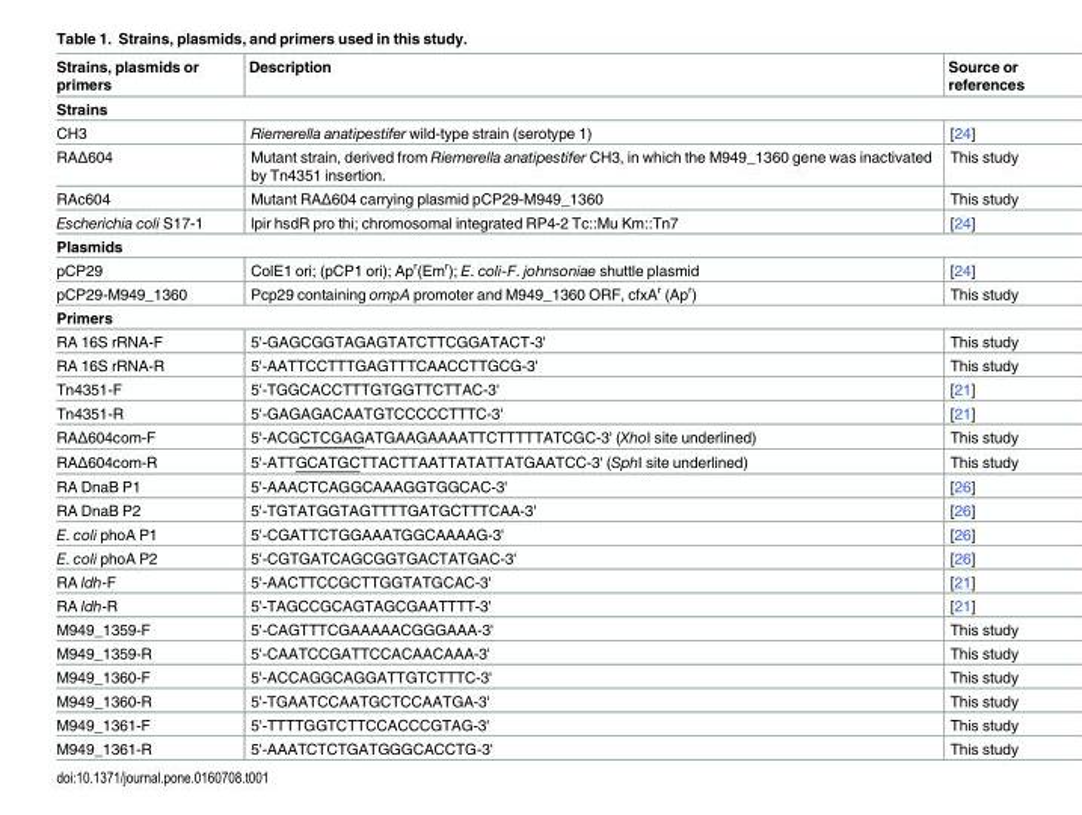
<table><thead><tr><td>Strains, plasmids or primers</td><td>Description</td><td>Source or references</td></tr></thead><tbody><tr><td colspan="3">Strains</td></tr><tr><td>CH3</td><td>Riemerella anatipestifer wild-type strain (serotype 1)</td><td>[24]</td></tr><tr><td>RAΔ604</td><td>Mutant strain, derived from Riemerella anatipestifer CH3, in which the M949_1360 gene was inactivated by Tn4351 insertion.</td><td>This study</td></tr><tr><td>RAc604</td><td>Mutant RAΔ604 carrying plasmid pCP29-M949_1360</td><td>This study</td></tr><tr><td>Escherichia coli S17-1</td><td>lpir hsdR pro thi; chromosomal integrated RP4-2 Tc::Mu Km::Tn7</td><td>[24]</td></tr><tr><td colspan="3">Plasmids</td></tr><tr><td>pCP29</td><td>ColE1 ori; (pCP1 ori); Ap<sup>r</sup>(Em<sup>r</sup>); E. coli-F. johnsoniae shuttle plasmid</td><td>[24]</td></tr><tr><td>pCP29-M949_1360</td><td>Pcp29 containing ompA promoter and M949_1360 ORF, cfxA<sup>r</sup> (Ap<sup>r</sup>)</td><td>This study</td></tr><tr><td colspan="3">Primers</td></tr><tr><td>RA 16S rRNA-F</td><td>5&#x27;-GAGCGGTAGAGTATCTTCGGATACT-3&#x27;</td><td>This study</td></tr><tr><td>RA 16S rRNA-R</td><td>5&#x27;-AATTCCTTTGAGTTTCAACCTTGCG-3&#x27;</td><td>This study</td></tr><tr><td>Tn4351-F</td><td>5&#x27;-TGGCACCTTTGTGGTTCTTAC-3&#x27;</td><td>[21]</td></tr><tr><td>Tn4351-R</td><td>5&#x27;-GAGAGACAATGTCCCCCTTTC-3&#x27;</td><td>[21]</td></tr><tr><td>RAΔ604com-F</td><td>5&#x27;-ACGCTCGAGATGAAGAAAATTCTTTTTATCGC-3&#x27; (XhoI site underlined)</td><td>This study</td></tr><tr><td>RAΔ604com-R</td><td>5&#x27;-ATTGCATGCTTACTTAATTATATTATGAATCC-3&#x27; (SphI site underlined)</td><td>This study</td></tr><tr><td>RA DnaB P1</td><td>5&#x27;-AAACTCAGGCAAAGGTGGCAC-3&#x27;</td><td>[26]</td></tr><tr><td>RA DnaB P2</td><td>5&#x27;-TGTATGGTAGTTTTGATGCTTTCAA-3&#x27;</td><td>[26]</td></tr><tr><td>E. coli phoA P1</td><td>5&#x27;-CGATTCTGGAAATGGCAAAAG-3&#x27;</td><td>[26]</td></tr><tr><td>E. coli phoA P2</td><td>5&#x27;-CGTGATCAGCGGTGACTATGAC-3&#x27;</td><td>[26]</td></tr><tr><td>RA ldh-F</td><td>5&#x27;-AACTTCCGCTTGGTATGCAC-3&#x27;</td><td>[21]</td></tr><tr><td>RA ldh-R</td><td>5&#x27;-TAGCCGCAGTAGCGAATTTT-3&#x27;</td><td>[21]</td></tr><tr><td>M949_1359-F</td><td>5&#x27;-CAGTTTCGAAAAACGGGAAA-3&#x27;</td><td>This study</td></tr><tr><td>M949_1359-R</td><td>5&#x27;-CAATCCGATTCCACAACAAA-3&#x27;</td><td>This study</td></tr><tr><td>M949_1360-F</td><td>5&#x27;-ACCAGGCAGGATTGTCTTTC-3&#x27;</td><td>This study</td></tr><tr><td>M949_1360-R</td><td>5&#x27;-TGAATCCAATGCTCCAATGA-3&#x27;</td><td>This study</td></tr><tr><td>M949_1361-F</td><td>5&#x27;-TTTTGGTCTTCCACCCGTAG-3&#x27;</td><td>This study</td></tr><tr><td>M949_1361-R</td><td>5&#x27;-AAATCTCTGATGGGCACCTG-3&#x27;</td><td>This study</td></tr></tbody></table>